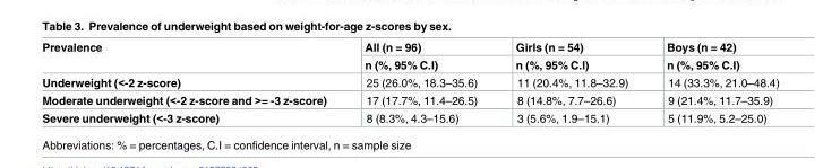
<table><thead><tr><td rowspan="2">Prevalence</td><td rowspan="2">All (n = 96) n (%, 95% C.I)</td><td rowspan="2">Girls (n = 54) n (%, 95% C.I)</td><td rowspan="2">Boys (n = 42) n (%, 95% C.I)</td></tr><tr></tr></thead><tbody><tr><td>Underweight (&lt;-2 z-score)</td><td>25 (26.0%, 18.3–35.6)</td><td>11 (20.4%, 11.8–32.9)</td><td>14 (33.3%, 21.0–48.4)</td></tr><tr><td>Moderate underweight (&lt;-2 z-score and &gt;= -3 z-score)</td><td>17 (17.7%, 11.4–26.5)</td><td>8 (14.8%, 7.7–26.6)</td><td>9 (21.4%, 11.7–35.9)</td></tr><tr><td>Severe underweight (&lt;-3 z-score)</td><td>8 (8.3%, 4.3–15.6)</td><td>3 (5.6%, 1.9–15.1)</td><td>5 (11.9%, 5.2–25.0)</td></tr></tbody></table>